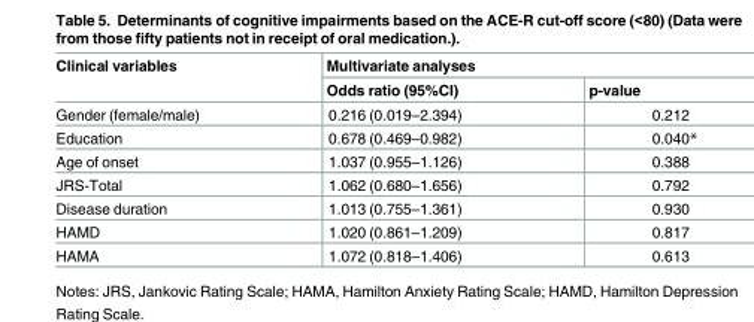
<table><thead><tr><td rowspan="2">Clinical variables</td><td colspan="2">Multivariate analyses</td></tr><tr><td>Odds ratio (95%CI)</td><td>p-value</td></tr></thead><tbody><tr><td>Gender (female/male)</td><td>0.216 (0.019–2.394)</td><td>0.212</td></tr><tr><td>Education</td><td>0.678 (0.469–0.982)</td><td>0.040*</td></tr><tr><td>Age of onset</td><td>1.037 (0.955–1.126)</td><td>0.388</td></tr><tr><td>JRS-Total</td><td>1.062 (0.680–1.656)</td><td>0.792</td></tr><tr><td>Disease duration</td><td>1.013 (0.755–1.361)</td><td>0.930</td></tr><tr><td>HAMD</td><td>1.020 (0.861–1.209)</td><td>0.817</td></tr><tr><td>HAMA</td><td>1.072 (0.818–1.406)</td><td>0.613</td></tr></tbody></table>